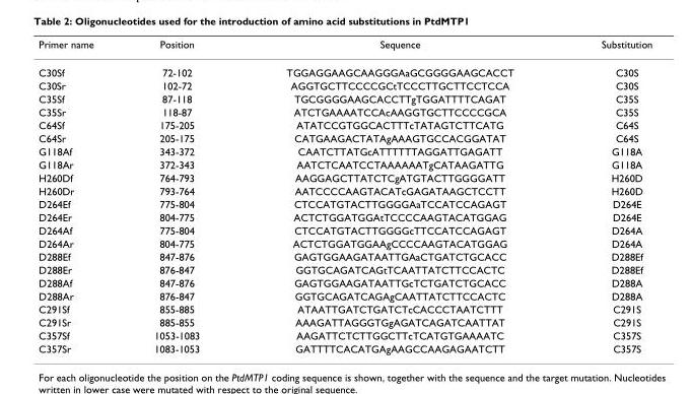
<table><thead><tr><td>Primer name</td><td>Position</td><td>Sequence</td><td>Substitution</td></tr></thead><tbody><tr><td>C30Sf</td><td>72-102</td><td>TGGAGGAAGCAAGGGAaGCGGGGAAGCACCT</td><td>C30S</td></tr><tr><td>C30Sr</td><td>102-72</td><td>AGGTGCTTCCCCGCtTCCCTTGCTTCCTCCA</td><td>C30S</td></tr><tr><td>C35Sf</td><td>87-118</td><td>TGCGGGGAAGCACCTTgTGGATTTTCAGAT</td><td>C35S</td></tr><tr><td>C35Sr</td><td>118-87</td><td>ATCTGAAAATCCAcAAGGTGCTTCCCCGCA</td><td>C35S</td></tr><tr><td>C64Sf</td><td>175-205</td><td>ATATCCGTGGCACTTTcTATAGTCTTCATG</td><td>C64S</td></tr><tr><td>C64Sr</td><td>205-175</td><td>CATGAAGACTATAgAAAGTGCCACGGATAT</td><td>C64S</td></tr><tr><td>G118Af</td><td>343-372</td><td>CAATCTTATGcATTTTTTAGGATTGAGATT</td><td>G118A</td></tr><tr><td>G118Ar</td><td>372-343</td><td>AATCTCAATCCTAAAAAATgCATAAGATTG</td><td>G118A</td></tr><tr><td>H260Df</td><td>764-793</td><td>AAGGAGCTTATCTCgATGTACTTGGGGATT</td><td>H260D</td></tr><tr><td>H260Dr</td><td>793-764</td><td>AATCCCCAAGTACATcGAGATAAGCTCCTT</td><td>H260D</td></tr><tr><td>D264Ef</td><td>775-804</td><td>CTCCATGTACTTGGGGAaTCCATCCAGAGT</td><td>D264E</td></tr><tr><td>D264Er</td><td>804-775</td><td>ACTCTGGATGGAtTCCCCAAGTACATGGAG</td><td>D264E</td></tr><tr><td>D264Af</td><td>775-804</td><td>CTCCATGTACTTGGGGcTTCCATCCAGAGT</td><td>D264A</td></tr><tr><td>D264Ar</td><td>804-775</td><td>ACTCTGGATGGAAgCCCCAAGTACATGGAG</td><td>D264A</td></tr><tr><td>D288Ef</td><td>847-876</td><td>GAGTGGAAGATAATTGAaCTGATCTGCACC</td><td>D288Ef</td></tr><tr><td>D288Er</td><td>876-847</td><td>GGTGCAGATCAGtTCAATTATCTTCCACTC</td><td>D288Ef</td></tr><tr><td>D288Af</td><td>847-876</td><td>GAGTGGAAGATAATTGcTCTGATCTGCACC</td><td>D288A</td></tr><tr><td>D288Ar</td><td>876-847</td><td>GGTGCAGATCAGAgCAATTATCTTCCACTC</td><td>D288A</td></tr><tr><td>C291Sf</td><td>855-885</td><td>ATAATTGATCTGATCTcCACCCTAATCTTT</td><td>C291S</td></tr><tr><td>C291Sr</td><td>885-855</td><td>AAAGATTAGGGTGgAGATCAGATCAATTAT</td><td>C291S</td></tr><tr><td>C357Sf</td><td>1053-1083</td><td>AAGATTCTCTTGGCTTcTCATGTGAAAATC</td><td>C357S</td></tr><tr><td>C357Sr</td><td>1083-1053</td><td>GATTTTCACATGAgAAGCCAAGAGAATCTT</td><td>C357S</td></tr></tbody></table>